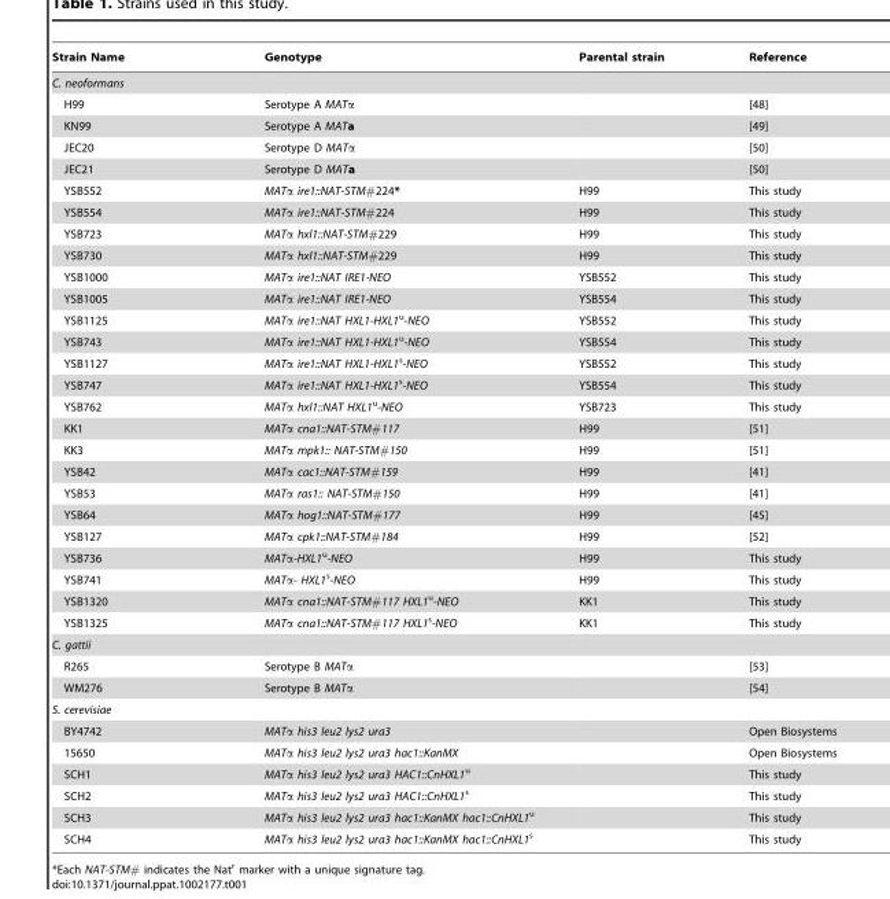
<table><thead><tr><td>Strain Name</td><td>Genotype</td><td>Parental strain</td><td>Reference</td></tr></thead><tbody><tr><td colspan="4">C. neoformans</td></tr><tr><td>H99</td><td>Serotype A MATα</td><td></td><td>[48]</td></tr><tr><td>KN99</td><td>Serotype A MATa</td><td></td><td>[49]</td></tr><tr><td>JEC20</td><td>Serotype D MATα</td><td></td><td>[50]</td></tr><tr><td>JEC21</td><td>Serotype D MATa</td><td></td><td>[50]</td></tr><tr><td>YSB552</td><td>MATα ire1::NAT-STM#224*</td><td>H99</td><td>This study</td></tr><tr><td>YSB554</td><td>MATα ire1::NAT-STM#224</td><td>H99</td><td>This study</td></tr><tr><td>YSB723</td><td>MATα hxl1::NAT-STM#229</td><td>H99</td><td>This study</td></tr><tr><td>YSB730</td><td>MATα hxl1::NAT-STM#229</td><td>H99</td><td>This study</td></tr><tr><td>YSB1000</td><td>MATα ire1::NAT IRE1-NEO</td><td>YSB552</td><td>This study</td></tr><tr><td>YSB1005</td><td>MATα ire1::NAT IRE1-NEO</td><td>YSB554</td><td>This study</td></tr><tr><td>YSB1125</td><td>MATα ire1::NAT HXL1-HXL1<sup>u</sup>-NEO</td><td>YSB552</td><td>This study</td></tr><tr><td>YSB743</td><td>MATα ire1::NAT HXL1-HXL1<sup>u</sup>-NEO</td><td>YSB554</td><td>This study</td></tr><tr><td>YSB1127</td><td>MATα ire1::NAT HXL1-HXL1<sup>s</sup>-NEO</td><td>YSB552</td><td>This study</td></tr><tr><td>YSB747</td><td>MATα ire1::NAT HXL1-HXL1<sup>s</sup>-NEO</td><td>YSB554</td><td>This study</td></tr><tr><td>YSB762</td><td>MATα hxl1::NAT HXL1<sup>u</sup>-NEO</td><td>YSB723</td><td>This study</td></tr><tr><td>KK1</td><td>MATα cna1::NAT-STM#117</td><td>H99</td><td>[51]</td></tr><tr><td>KK3</td><td>MATα mpk1:: NAT-STM#150</td><td>H99</td><td>[51]</td></tr><tr><td>YSB42</td><td>MATα cac1::NAT-STM#159</td><td>H99</td><td>[41]</td></tr><tr><td>YSB53</td><td>MATα ras1:: NAT-STM#150</td><td>H99</td><td>[41]</td></tr><tr><td>YSB64</td><td>MATα hog1::NAT-STM#177</td><td>H99</td><td>[45]</td></tr><tr><td>YSB127</td><td>MATα cpk1::NAT-STM#184</td><td>H99</td><td>[52]</td></tr><tr><td>YSB736</td><td>MATα-HXL1<sup>u</sup>-NEO</td><td>H99</td><td>This study</td></tr><tr><td>YSB741</td><td>MATα- HXL1<sup>s</sup>-NEO</td><td>H99</td><td>This study</td></tr><tr><td>YSB1320</td><td>MATα cna1::NAT-STM#117 HXL1<sup>u</sup>-NEO</td><td>KK1</td><td>This study</td></tr><tr><td>YSB1325</td><td>MATα cna1::NAT-STM#117 HXL1<sup>s</sup>-NEO</td><td>KK1</td><td>This study</td></tr><tr><td colspan="4">C. gattii</td></tr><tr><td>R265</td><td>Serotype B MATα</td><td></td><td>[53]</td></tr><tr><td>WM276</td><td>Serotype B MATα</td><td></td><td>[54]</td></tr><tr><td colspan="4">S. cerevisiae</td></tr><tr><td>BY4742</td><td>MATα his3 leu2 lys2 ura3</td><td></td><td>Open Biosystems</td></tr><tr><td>15650</td><td>MATα his3 leu2 lys2 ura3 hac1::KanMX</td><td></td><td>Open Biosystems</td></tr><tr><td>SCH1</td><td>MATα his3 leu2 lys2 ura3 HAC1::CnHXL1<sup>u</sup></td><td></td><td>This study</td></tr><tr><td>SCH2</td><td>MATα his3 leu2 lys2 ura3 HAC1::CnHXL1<sup>s</sup></td><td></td><td>This study</td></tr><tr><td>SCH3</td><td>MATα his3 leu2 lys2 ura3 hac1::KanMX hac1::CnHXL1<sup>u</sup></td><td></td><td>This study</td></tr><tr><td>SCH4</td><td>MATα his3 leu2 lys2 ura3 hac1::KanMX hac1::CnHXL1<sup>s</sup></td><td></td><td>This study</td></tr></tbody></table>